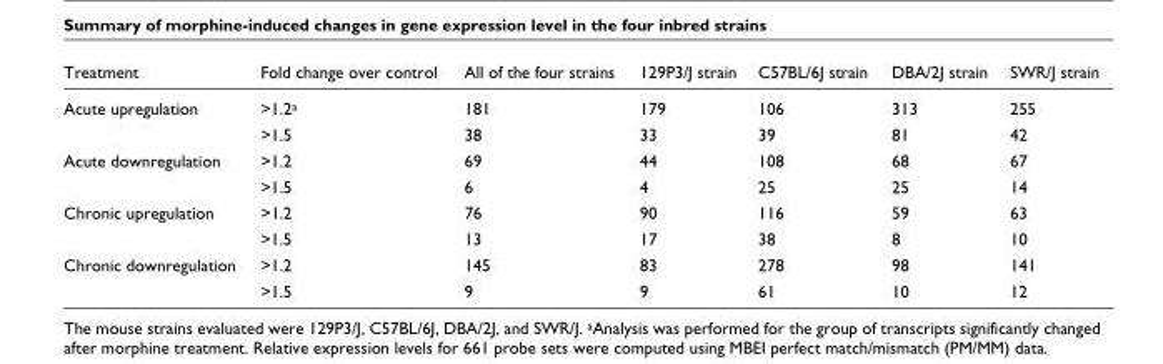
<table><thead><tr><td>Treatment</td><td>Fold change over control</td><td>All of the four strains</td><td>129P3/J strain</td><td>C57BL/6J strain</td><td>DBA/2J strain</td><td>SWR/J strain</td></tr></thead><tbody><tr><td rowspan="2">Acute upregulation</td><td>&gt;1.2<sup>a</sup></td><td>181</td><td>179</td><td>106</td><td>313</td><td>255</td></tr><tr><td>&gt;1.5</td><td>38</td><td>33</td><td>39</td><td>81</td><td>42</td></tr><tr><td rowspan="2">Acute downregulation</td><td>&gt;1.2</td><td>69</td><td>44</td><td>108</td><td>68</td><td>67</td></tr><tr><td>&gt;1.5</td><td>6</td><td>4</td><td>25</td><td>25</td><td>14</td></tr><tr><td rowspan="2">Chronic upregulation</td><td>&gt;1.2</td><td>76</td><td>90</td><td>116</td><td>59</td><td>63</td></tr><tr><td>&gt;1.5</td><td>13</td><td>17</td><td>38</td><td>8</td><td>10</td></tr><tr><td rowspan="2">Chronic downregulation</td><td>&gt;1.2</td><td>145</td><td>83</td><td>278</td><td>98</td><td>141</td></tr><tr><td>&gt;1.5</td><td>9</td><td>9</td><td>61</td><td>10</td><td>12</td></tr></tbody></table>